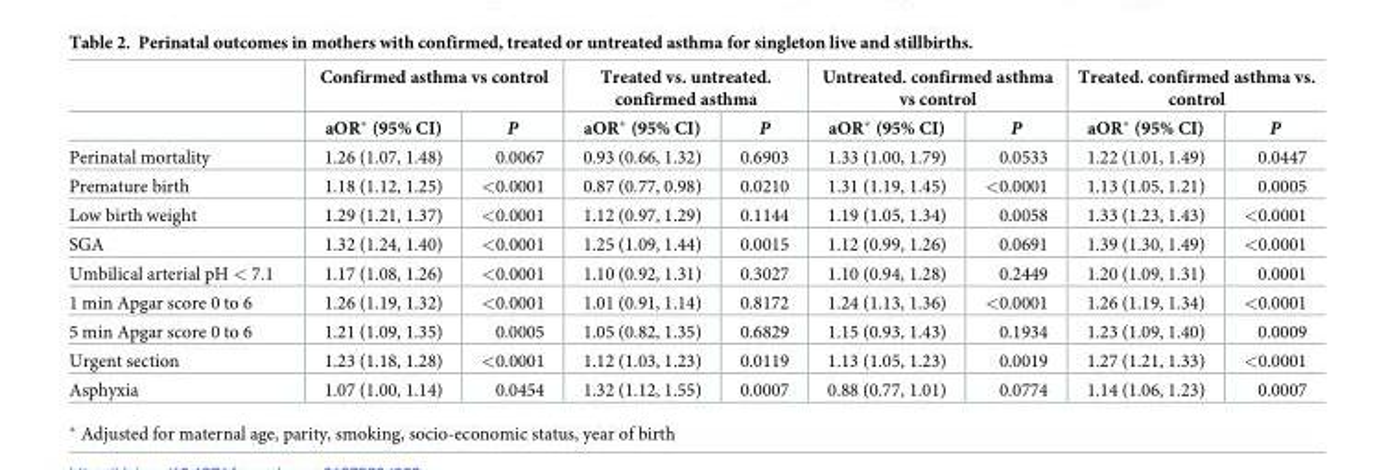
<table><thead><tr><td rowspan="2"></td><td colspan="2">Confirmed asthma vs control</td><td colspan="2">Treated vs. untreated. confirmed asthma</td><td colspan="2">Untreated. confirmed asthma vs control</td><td colspan="2">Treated. confirmed asthma vs. control</td></tr><tr><td>aOR* (95% CI)</td><td>P</td><td>aOR* (95% CI)</td><td>P</td><td>aOR* (95% CI)</td><td>P</td><td>aOR* (95% CI)</td><td>P</td></tr></thead><tbody><tr><td>Perinatal mortality</td><td>1.26 (1.07, 1.48)</td><td>0.0067</td><td>0.93 (0.66, 1.32)</td><td>0.6903</td><td>1.33 (1.00, 1.79)</td><td>0.0533</td><td>1.22 (1.01, 1.49)</td><td>0.0447</td></tr><tr><td>Premature birth</td><td>1.18 (1.12, 1.25)</td><td>&lt;0.0001</td><td>0.87 (0.77, 0.98)</td><td>0.0210</td><td>1.31 (1.19, 1.45)</td><td>&lt;0.0001</td><td>1.13 (1.05, 1.21)</td><td>0.0005</td></tr><tr><td>Low birth weight</td><td>1.29 (1.21, 1.37)</td><td>&lt;0.0001</td><td>1.12 (0.97, 1.29)</td><td>0.1144</td><td>1.19 (1.05, 1.34)</td><td>0.0058</td><td>1.33 (1.23, 1.43)</td><td>&lt;0.0001</td></tr><tr><td>SGA</td><td>1.32 (1.24, 1.40)</td><td>&lt;0.0001</td><td>1.25 (1.09, 1.44)</td><td>0.0015</td><td>1.12 (0.99, 1.26)</td><td>0.0691</td><td>1.39 (1.30, 1.49)</td><td>&lt;0.0001</td></tr><tr><td>Umbilical arterial pH &lt; 7.1</td><td>1.17 (1.08, 1.26)</td><td>&lt;0.0001</td><td>1.10 (0.92, 1.31)</td><td>0.3027</td><td>1.10 (0.94, 1.28)</td><td>0.2449</td><td>1.20 (1.09, 1.31)</td><td>0.0001</td></tr><tr><td>1 min Apgar score 0 to 6</td><td>1.26 (1.19, 1.32)</td><td>&lt;0.0001</td><td>1.01 (0.91, 1.14)</td><td>0.8172</td><td>1.24 (1.13, 1.36)</td><td>&lt;0.0001</td><td>1.26 (1.19, 1.34)</td><td>&lt;0.0001</td></tr><tr><td>5 min Apgar score 0 to 6</td><td>1.21 (1.09, 1.35)</td><td>0.0005</td><td>1.05 (0.82, 1.35)</td><td>0.6829</td><td>1.15 (0.93, 1.43)</td><td>0.1934</td><td>1.23 (1.09, 1.40)</td><td>0.0009</td></tr><tr><td>Urgent section</td><td>1.23 (1.18, 1.28)</td><td>&lt;0.0001</td><td>1.12 (1.03, 1.23)</td><td>0.0119</td><td>1.13 (1.05, 1.23)</td><td>0.0019</td><td>1.27 (1.21, 1.33)</td><td>&lt;0.0001</td></tr><tr><td>Asphyxia</td><td>1.07 (1.00, 1.14)</td><td>0.0454</td><td>1.32 (1.12, 1.55)</td><td>0.0007</td><td>0.88 (0.77, 1.01)</td><td>0.0774</td><td>1.14 (1.06, 1.23)</td><td>0.0007</td></tr></tbody></table>